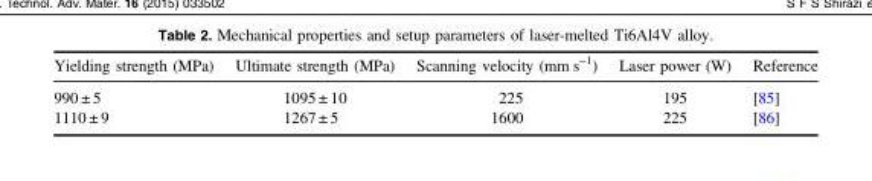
<table><thead><tr><td>Yielding strength (MPa)</td><td>Ultimate strength (MPa)</td><td>Scanning velocity (mm s<sup>−1</sup>)</td><td>Laser power (W)</td><td>Reference</td></tr></thead><tbody><tr><td>990 ± 5</td><td>1095 ± 10</td><td>225</td><td>195</td><td>[85]</td></tr><tr><td>1110 ± 9</td><td>1267 ± 5</td><td>1600</td><td>225</td><td>[86]</td></tr></tbody></table>